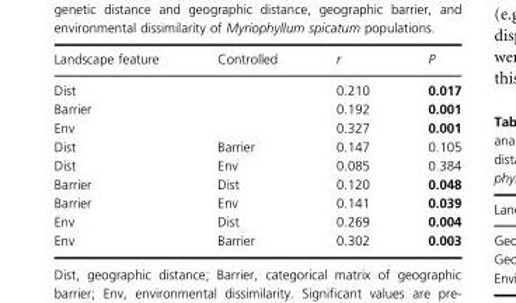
<table><thead><tr><td>Landscape feature</td><td>Controlled</td><td>r</td><td>P</td></tr></thead><tbody><tr><td>Dist</td><td></td><td>0.210</td><td>0.017</td></tr><tr><td>Barrier</td><td></td><td>0.192</td><td>0.001</td></tr><tr><td>Env</td><td></td><td>0.327</td><td>0.001</td></tr><tr><td>Dist</td><td>Barrier</td><td>0.147</td><td>0.105</td></tr><tr><td>Dist</td><td>Env</td><td>0.085</td><td>0.384</td></tr><tr><td>Barrier</td><td>Dist</td><td>0.120</td><td>0.048</td></tr><tr><td>Barrier</td><td>Env</td><td>0.141</td><td>0.039</td></tr><tr><td>Env</td><td>Dist</td><td>0.269</td><td>0.004</td></tr><tr><td>Env</td><td>Barrier</td><td>0.302</td><td>0.003</td></tr></tbody></table>